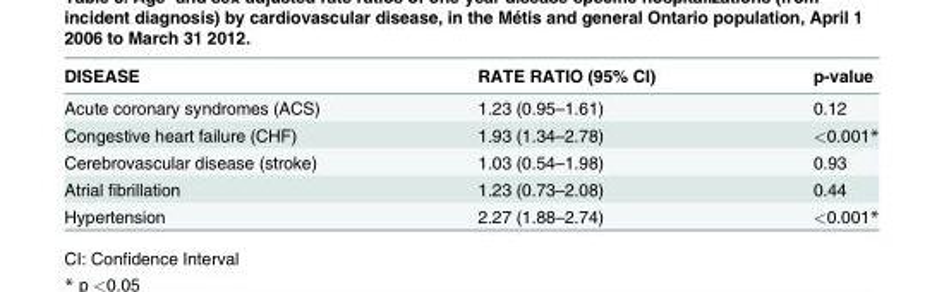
<table><thead><tr><td>DISEASE</td><td>RATE RATIO (95% CI)</td><td>p-value</td></tr></thead><tbody><tr><td>Acute coronary syndromes (ACS)</td><td>1.23 (0.95–1.61)</td><td>0.12</td></tr><tr><td>Congestive heart failure (CHF)</td><td>1.93 (1.34–2.78)</td><td>&lt;0.001*</td></tr><tr><td>Cerebrovascular disease (stroke)</td><td>1.03 (0.54–1.98)</td><td>0.93</td></tr><tr><td>Atrial fibrillation</td><td>1.23 (0.73–2.08)</td><td>0.44</td></tr><tr><td>Hypertension</td><td>2.27 (1.88–2.74)</td><td>&lt;0.001*</td></tr></tbody></table>